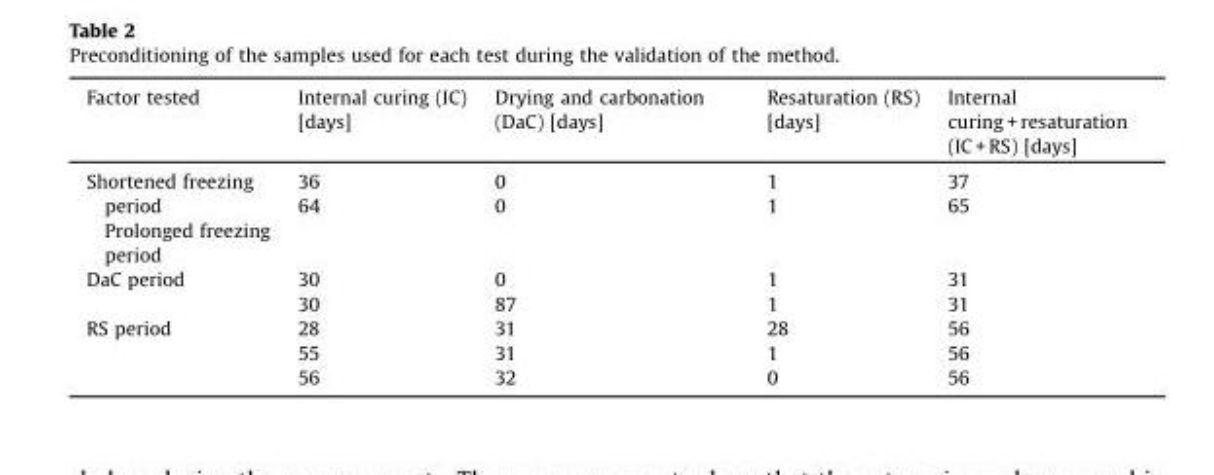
<table><thead><tr><td>Factor tested</td><td>Internal curing (IC) [days]</td><td>Drying and carbonation (DaC) [days]</td><td>Resaturation (RS) [days]</td><td>Internal curing + resaturation (IC + RS) [days]</td></tr></thead><tbody><tr><td>Shortened freezing period Prolonged freezing period</td><td>36 64</td><td>0 0</td><td>1 1</td><td>37 65</td></tr><tr><td>DaC period</td><td>30 30</td><td>0 87</td><td>1 1</td><td>31 31</td></tr><tr><td>RS period</td><td>28 55 56</td><td>31 31 32</td><td>28 1 0</td><td>56 56 56</td></tr></tbody></table>